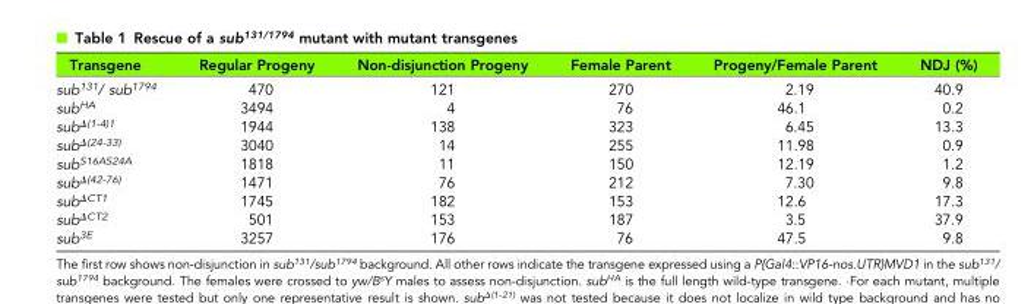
<table><thead><tr><td>Transgene</td><td>Regular Progeny</td><td>Non-disjunction Progeny</td><td>Female Parent</td><td>Progeny/Female Parent</td><td>NDJ (%)</td></tr></thead><tbody><tr><td>sub<sup>131</sup>/ sub<sup>1794</sup></td><td>470</td><td>121</td><td>270</td><td>2.19</td><td>40.9</td></tr><tr><td>sub<sup>HA</sup></td><td>3494</td><td>4</td><td>76</td><td>46.1</td><td>0.2</td></tr><tr><td>sub<sup>Δ(1-4)1</sup></td><td>1944</td><td>138</td><td>323</td><td>6.45</td><td>13.3</td></tr><tr><td>sub<sup>Δ(24-33)</sup></td><td>3040</td><td>14</td><td>255</td><td>11.98</td><td>0.9</td></tr><tr><td>sub<sup>S16AS24A</sup></td><td>1818</td><td>11</td><td>150</td><td>12.19</td><td>1.2</td></tr><tr><td>sub<sup>Δ(42-76)</sup></td><td>1471</td><td>76</td><td>212</td><td>7.30</td><td>9.8</td></tr><tr><td>sub<sup>ΔCT1</sup></td><td>1745</td><td>182</td><td>153</td><td>12.6</td><td>17.3</td></tr><tr><td>sub<sup>ΔCT2</sup></td><td>501</td><td>153</td><td>187</td><td>3.5</td><td>37.9</td></tr><tr><td>sub<sup>3E</sup></td><td>3257</td><td>176</td><td>76</td><td>47.5</td><td>9.8</td></tr></tbody></table>